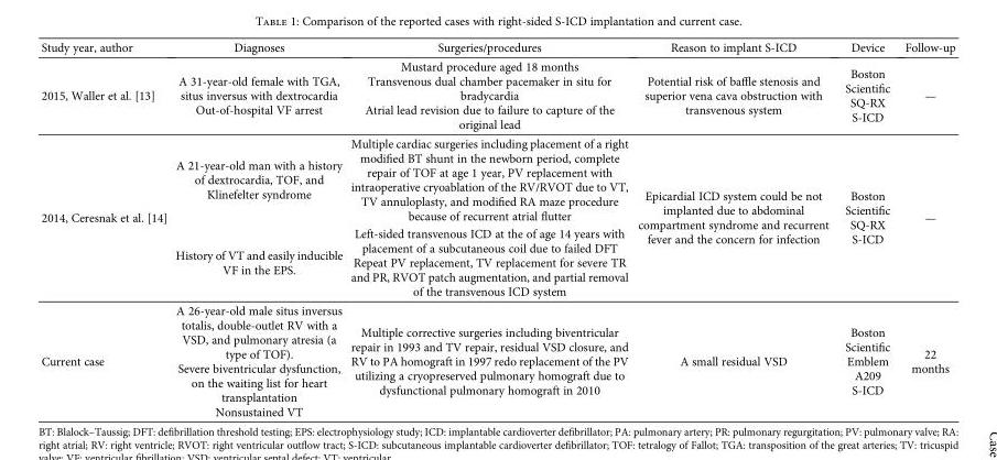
<table><thead><tr><td>Study year, author</td><td>Diagnoses</td><td>Surgeries/procedures</td><td>Reason to implant S-ICD</td><td>Device</td><td>Follow-up</td></tr></thead><tbody><tr><td>2015, Waller et al. [13]</td><td>A 31-year-old female with TGA, situs inversus with dextrocardia Out-of-hospital VF arrest</td><td>Mustard procedure aged 18 months Transvenous dual chamber pacemaker in situ for bradycardia Atrial lead revision due to failure to capture of the original lead</td><td>Potential risk of baffle stenosis and superior vena cava obstruction with transvenous system</td><td>Boston Scientific SQ-RX S-ICD</td><td>—</td></tr><tr><td rowspan="2">2014, Ceresnak et al. [14]</td><td>A 21-year-old man with a history of dextrocardia, TOF, and Klinefelter syndrome</td><td>Multiple cardiac surgeries including placement of a right modified BT shunt in the newborn period, complete repair of TOF at age 1 year, PV replacement with intraoperative cryoablation of the RV/RVOT due to VT, TV annuloplasty, and modified RA maze procedure because of recurrent atrial flutter</td><td rowspan="2">Epicardial ICD system could be not implanted due to abdominal compartment syndrome and recurrent fever and the concern for infection</td><td rowspan="2">Boston Scientific SQ-RX S-ICD</td><td rowspan="2">—</td></tr><tr><td>History of VT and easily inducible VF in the EPS.</td><td>Left-sided transvenous ICD at the of age 14 years with placement of a subcutaneous coil due to failed DFT Repeat PV replacement, TV replacement for severe TR and PR, RVOT patch augmentation, and partial removal of the transvenous ICD system</td></tr><tr><td>Current case</td><td>A 26-year-old male situs inversus totalis, double-outlet RV with a VSD, and pulmonary atresia (a type of TOF). Severe biventricular dysfunction, on the waiting list for heart transplantation Nonsustained VT</td><td>Multiple corrective surgeries including biventricular repair in 1993 and TV repair, residual VSD closure, and RV to PA homograft in 1997 redo replacement of the PV utilizing a cryopreserved pulmonary homograft due to dysfunctional pulmonary homograft in 2010</td><td>A small residual VSD</td><td>Boston Scientific Emblem A209 S-ICD</td><td>22 months</td></tr></tbody></table>